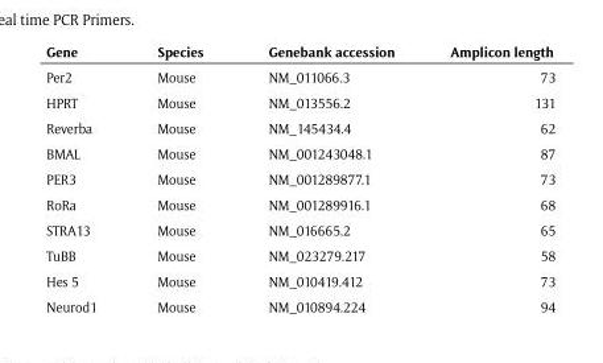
<table><thead><tr><td>Gene</td><td>Species</td><td>Genebank accession</td><td>Amplicon length</td></tr></thead><tbody><tr><td>Per2</td><td>Mouse</td><td>NM_011066.3</td><td>73</td></tr><tr><td>HPRT</td><td>Mouse</td><td>NM_013556.2</td><td>131</td></tr><tr><td>Reverba</td><td>Mouse</td><td>NM_145434.4</td><td>62</td></tr><tr><td>BMAL</td><td>Mouse</td><td>NM_001243048.1</td><td>87</td></tr><tr><td>PER3</td><td>Mouse</td><td>NM_001289877.1</td><td>73</td></tr><tr><td>RoRa</td><td>Mouse</td><td>NM_001289916.1</td><td>68</td></tr><tr><td>STRA13</td><td>Mouse</td><td>NM_016665.2</td><td>65</td></tr><tr><td>TuBB</td><td>Mouse</td><td>NM_023279.217</td><td>58</td></tr><tr><td>Hes 5</td><td>Mouse</td><td>NM_010419.412</td><td>73</td></tr><tr><td>Neurod1</td><td>Mouse</td><td>NM_010894.224</td><td>94</td></tr></tbody></table>